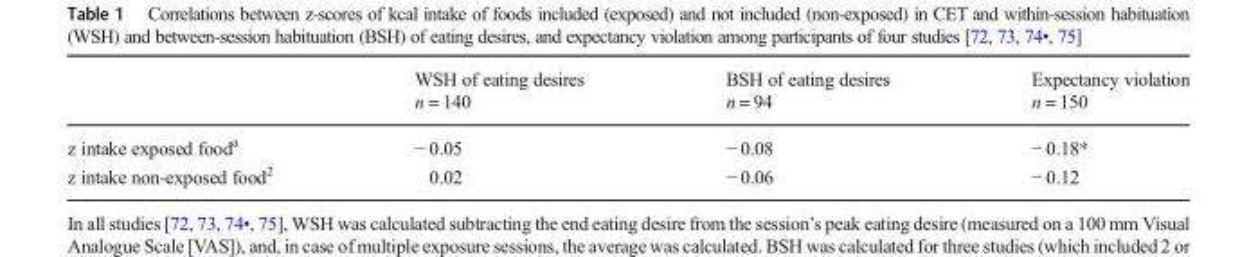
<table><thead><tr><td></td><td>WSH of eating desires n = 140</td><td>BSH of eating desires n = 94</td><td>Expectancy violation n = 150</td></tr></thead><tbody><tr><td>z intake exposed food<sup>a</sup></td><td>− 0.05</td><td>− 0.08</td><td>− 0.18*</td></tr><tr><td>z intake non-exposed food<sup>2</sup></td><td>0.02</td><td>− 0.06</td><td>− 0.12</td></tr></tbody></table>